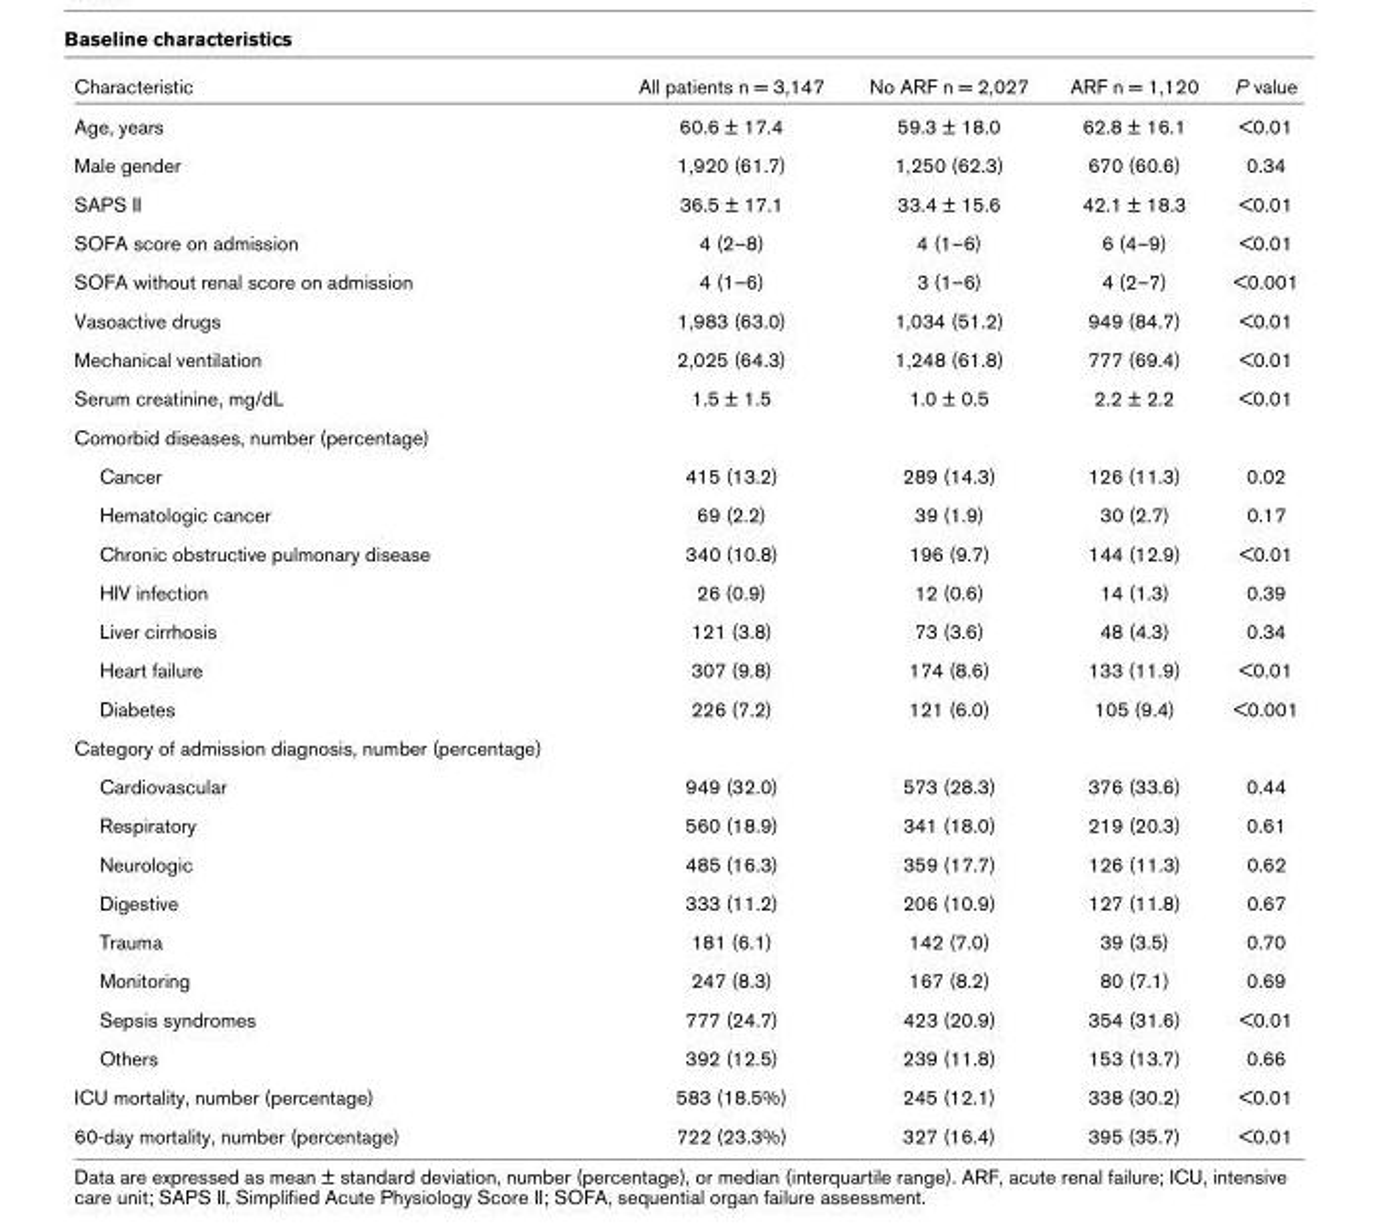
<table><thead><tr><td>Characteristic</td><td>All patients n = 3,147</td><td>No ARF n = 2,027</td><td>ARF n = 1,120</td><td>P value</td></tr></thead><tbody><tr><td>Age, years</td><td>60.6 ± 17.4</td><td>59.3 ± 18.0</td><td>62.8 ± 16.1</td><td>&lt;0.01</td></tr><tr><td>Male gender</td><td>1,920 (61.7)</td><td>1,250 (62.3)</td><td>670 (60.6)</td><td>0.34</td></tr><tr><td>SAPS II</td><td>36.5 ± 17.1</td><td>33.4 ± 15.6</td><td>42.1 ± 18.3</td><td>&lt;0.01</td></tr><tr><td>SOFA score on admission</td><td>4 (2–8)</td><td>4 (1–6)</td><td>6 (4–9)</td><td>&lt;0.01</td></tr><tr><td>SOFA without renal score on admission</td><td>4 (1–6)</td><td>3 (1–6)</td><td>4 (2–7)</td><td>&lt;0.001</td></tr><tr><td>Vasoactive drugs</td><td>1,983 (63.0)</td><td>1,034 (51.2)</td><td>949 (84.7)</td><td>&lt;0.01</td></tr><tr><td>Mechanical ventilation</td><td>2,025 (64.3)</td><td>1,248 (61.8)</td><td>777 (69.4)</td><td>&lt;0.01</td></tr><tr><td>Serum creatinine, mg/dL</td><td>1.5 ± 1.5</td><td>1.0 ± 0.5</td><td>2.2 ± 2.2</td><td>&lt;0.01</td></tr><tr><td colspan="5">Comorbid diseases, number (percentage)</td></tr><tr><td>Cancer</td><td>415 (13.2)</td><td>289 (14.3)</td><td>126 (11.3)</td><td>0.02</td></tr><tr><td>Hematologic cancer</td><td>69 (2.2)</td><td>39 (1.9)</td><td>30 (2.7)</td><td>0.17</td></tr><tr><td>Chronic obstructive pulmonary disease</td><td>340 (10.8)</td><td>196 (9.7)</td><td>144 (12.9)</td><td>&lt;0.01</td></tr><tr><td>HIV infection</td><td>26 (0.9)</td><td>12 (0.6)</td><td>14 (1.3)</td><td>0.39</td></tr><tr><td>Liver cirrhosis</td><td>121 (3.8)</td><td>73 (3.6)</td><td>48 (4.3)</td><td>0.34</td></tr><tr><td>Heart failure</td><td>307 (9.8)</td><td>174 (8.6)</td><td>133 (11.9)</td><td>&lt;0.01</td></tr><tr><td>Diabetes</td><td>226 (7.2)</td><td>121 (6.0)</td><td>105 (9.4)</td><td>&lt;0.001</td></tr><tr><td colspan="5">Category of admission diagnosis, number (percentage)</td></tr><tr><td>Cardiovascular</td><td>949 (32.0)</td><td>573 (28.3)</td><td>376 (33.6)</td><td>0.44</td></tr><tr><td>Respiratory</td><td>560 (18.9)</td><td>341 (18.0)</td><td>219 (20.3)</td><td>0.61</td></tr><tr><td>Neurologic</td><td>485 (16.3)</td><td>359 (17.7)</td><td>126 (11.3)</td><td>0.62</td></tr><tr><td>Digestive</td><td>333 (11.2)</td><td>206 (10.9)</td><td>127 (11.8)</td><td>0.67</td></tr><tr><td>Trauma</td><td>181 (6.1)</td><td>142 (7.0)</td><td>39 (3.5)</td><td>0.70</td></tr><tr><td>Monitoring</td><td>247 (8.3)</td><td>167 (8.2)</td><td>80 (7.1)</td><td>0.69</td></tr><tr><td>Sepsis syndromes</td><td>777 (24.7)</td><td>423 (20.9)</td><td>354 (31.6)</td><td>&lt;0.01</td></tr><tr><td>Others</td><td>392 (12.5)</td><td>239 (11.8)</td><td>153 (13.7)</td><td>0.66</td></tr><tr><td>ICU mortality, number (percentage)</td><td>583 (18.5%)</td><td>245 (12.1)</td><td>338 (30.2)</td><td>&lt;0.01</td></tr><tr><td>60-day mortality, number (percentage)</td><td>722 (23.3%)</td><td>327 (16.4)</td><td>395 (35.7)</td><td>&lt;0.01</td></tr></tbody></table>